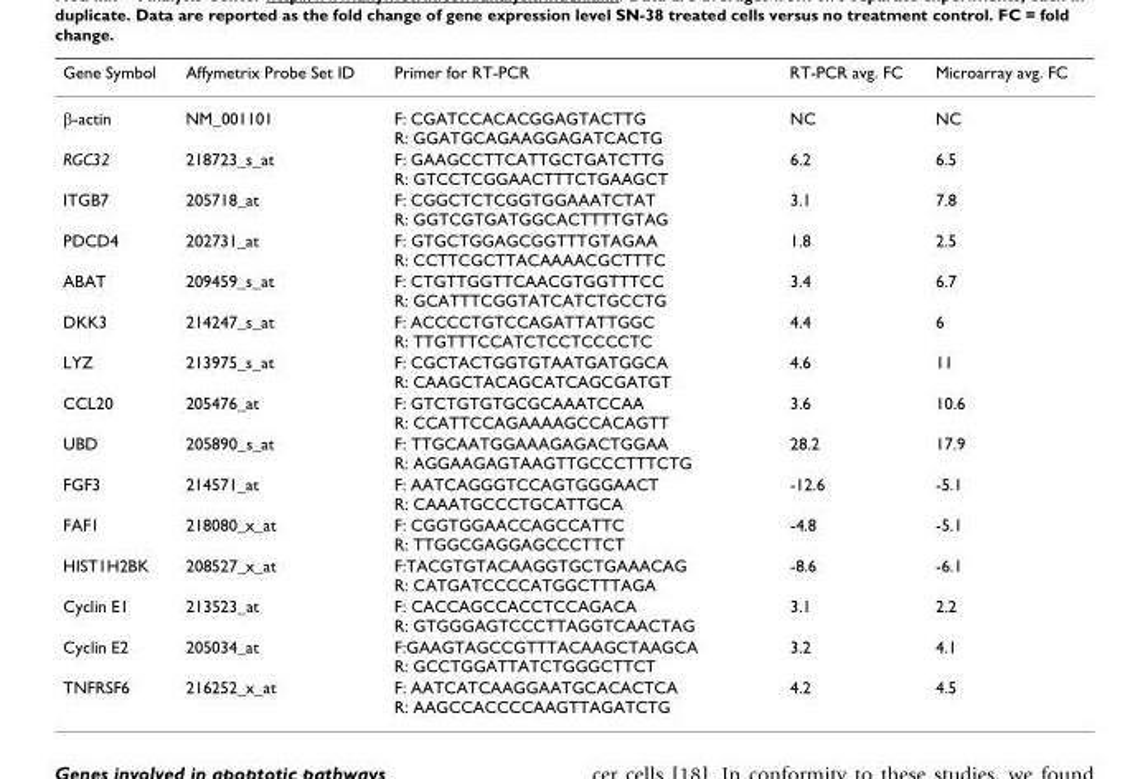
<table><thead><tr><td>Gene Symbol</td><td>Affymetrix Probe Set ID</td><td>Primer for RT-PCR</td><td>RT-PCR avg. FC</td><td>Microarray avg. FC</td></tr></thead><tbody><tr><td>β-actin</td><td>NM_001101</td><td>F: CGATCCACACGGAGTACTTG R: GGATGCAGAAGGAGATCACTG</td><td>NC</td><td>NC</td></tr><tr><td>RGC32</td><td>218723_s_at</td><td>F: GAAGCCTTCATTGCTGATCTTG R: GTCCTCGGAACTTTCTGAAGCT</td><td>6.2</td><td>6.5</td></tr><tr><td>ITGB7</td><td>205718_at</td><td>F: CGGCTCTCGGTGGAAATCTAT R: GGTCGTGATGGCACTTTTGTAG</td><td>3.1</td><td>7.8</td></tr><tr><td>PDCD4</td><td>202731_at</td><td>F: GTGCTGGAGCGGTTTGTAGAA R: CCTTCGCTTACAAAACGCTTTC</td><td>1.8</td><td>2.5</td></tr><tr><td>ABAT</td><td>209459_s_at</td><td>F: CTGTTGGTTCAACGTGGTTTCC R: GCATTTCGGTATCATCTGCCTG</td><td>3.4</td><td>6.7</td></tr><tr><td>DKK3</td><td>214247_s_at</td><td>F: ACCCCTGTCCAGATTATTGGC R: TTGTTTCCATCTCCTCCCCTC</td><td>4.4</td><td>6</td></tr><tr><td>LYZ</td><td>213975_s_at</td><td>F: CGCTACTGGTGTAATGATGGCA R: CAAGCTACAGCATCAGCGATGT</td><td>4.6</td><td>11</td></tr><tr><td>CCL20</td><td>205476_at</td><td>F: GTCTGTGTGCGCAAATCCAA R: CCATTCCAGAAAAGCCACAGTT</td><td>3.6</td><td>10.6</td></tr><tr><td>UBD</td><td>205890_s_at</td><td>F: TTGCAATGGAAAGAGACTGGAA R: AGGAAGAGTAAGTTGCCCTTTCTG</td><td>28.2</td><td>17.9</td></tr><tr><td>FGF3</td><td>214571_at</td><td>F: AATCAGGGTCCAGTGGGAACT R: CAAATGCCCTGCATTGCA</td><td>-12.6</td><td>-5.1</td></tr><tr><td>FAF1</td><td>218080_x_at</td><td>F: CGGTGGAACCAGCCATTC R: TTGGCGAGGAGCCCTTCT</td><td>-4.8</td><td>-5.1</td></tr><tr><td>HIST1H2BK</td><td>208527_x_at</td><td>F:TACGTGTACAAGGTGCTGAAACAG R: CATGATCCCCATGGCTTTAGA</td><td>-8.6</td><td>-6.1</td></tr><tr><td>Cyclin E1</td><td>213523_at</td><td>F: CACCAGCCACCTCCAGACA R: GTGGGAGTCCCTTAGGTCAACTAG</td><td>3.1</td><td>2.2</td></tr><tr><td>Cyclin E2</td><td>205034_at</td><td>F:GAAGTAGCCGTTTACAAGCTAAGCA R: GCCTGGATTATCTGGGCTTCT</td><td>3.2</td><td>4.1</td></tr><tr><td>TNFRSF6</td><td>216252_x_at</td><td>F: AATCATCAAGGAATGCACACTCA R: AAGCCACCCCAAGTTAGATCTG</td><td>4.2</td><td>4.5</td></tr></tbody></table>